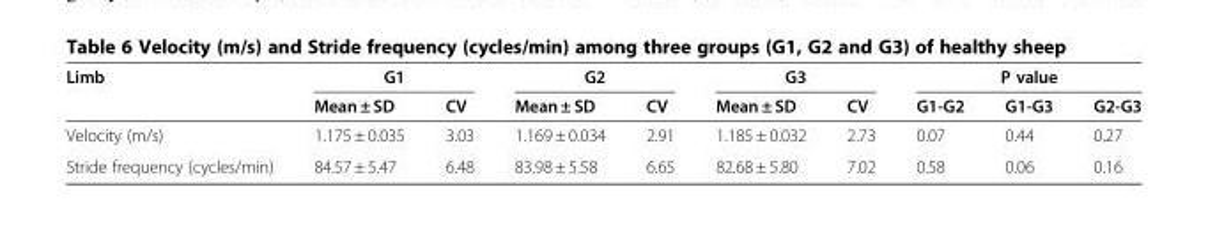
<table><thead><tr><td rowspan="2">Limb</td><td colspan="2">G1</td><td colspan="2">G2</td><td colspan="2">G3</td><td colspan="3">P value</td></tr><tr><td>Mean ± SD</td><td>CV</td><td>Mean ± SD</td><td>CV</td><td>Mean ± SD</td><td>CV</td><td>G1-G2</td><td>G1-G3</td><td>G2-G3</td></tr></thead><tbody><tr><td>Velocity (m/s)</td><td>1.175 ± 0.035</td><td>3.03</td><td>1.169 ± 0.034</td><td>2.91</td><td>1.185 ± 0.032</td><td>2.73</td><td>0.07</td><td>0.44</td><td>0.27</td></tr><tr><td>Stride frequency (cycles/min)</td><td>84.57 ± 5.47</td><td>6.48</td><td>83.98 ± 5.58</td><td>6.65</td><td>82.68 ± 5.80</td><td>7.02</td><td>0.58</td><td>0.06</td><td>0.16</td></tr></tbody></table>